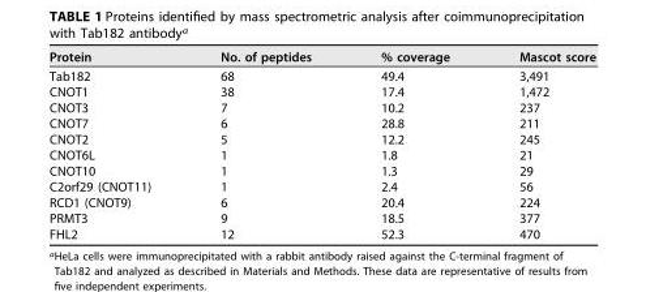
<table><thead><tr><td>Protein</td><td>No. of peptides</td><td>% coverage</td><td>Mascot score</td></tr></thead><tbody><tr><td>Tab182</td><td>68</td><td>49.4</td><td>3,491</td></tr><tr><td>CNOT1</td><td>38</td><td>17.4</td><td>1,472</td></tr><tr><td>CNOT3</td><td>7</td><td>10.2</td><td>237</td></tr><tr><td>CNOT7</td><td>6</td><td>28.8</td><td>211</td></tr><tr><td>CNOT2</td><td>5</td><td>12.2</td><td>245</td></tr><tr><td>CNOT6L</td><td>1</td><td>1.8</td><td>21</td></tr><tr><td>CNOT10</td><td>1</td><td>1.3</td><td>29</td></tr><tr><td>C2orf29 (CNOT11)</td><td>1</td><td>2.4</td><td>56</td></tr><tr><td>RCD1 (CNOT9)</td><td>6</td><td>20.4</td><td>224</td></tr><tr><td>PRMT3</td><td>9</td><td>18.5</td><td>377</td></tr><tr><td>FHL2</td><td>12</td><td>52.3</td><td>470</td></tr></tbody></table>